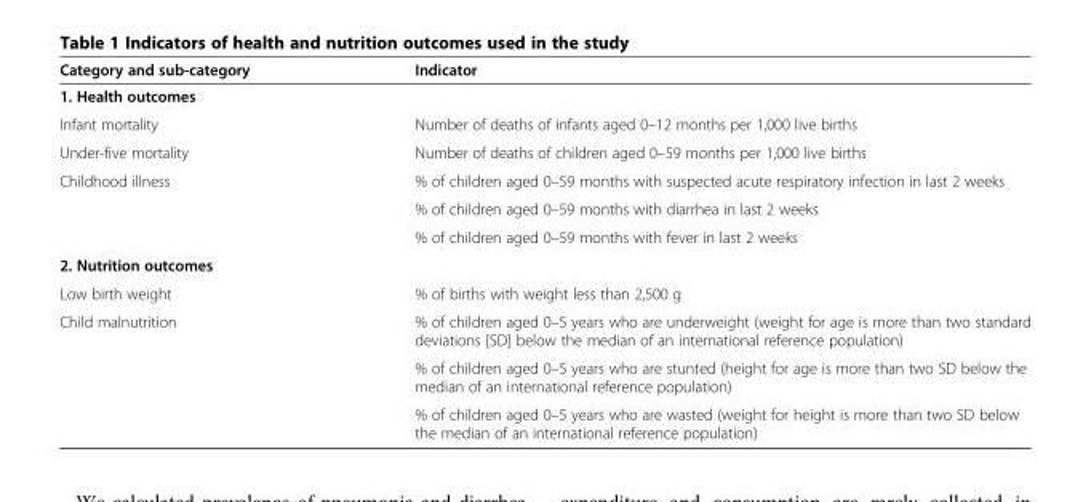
<table><thead><tr><td>Category and sub-category</td><td>Indicator</td></tr></thead><tbody><tr><td colspan="2">1. Health outcomes</td></tr><tr><td>Infant mortality</td><td>Number of deaths of infants aged 0–12 months per 1,000 live births</td></tr><tr><td>Under-five mortality</td><td>Number of deaths of children aged 0–59 months per 1,000 live births</td></tr><tr><td rowspan="3">Childhood illness</td><td>% of children aged 0–59 months with suspected acute respiratory infection in last 2 weeks</td></tr><tr><td>% of children aged 0–59 months with diarrhea in last 2 weeks</td></tr><tr><td>% of children aged 0–59 months with fever in last 2 weeks</td></tr><tr><td colspan="2">2. Nutrition outcomes</td></tr><tr><td>Low birth weight</td><td>% of births with weight less than 2,500 g</td></tr><tr><td rowspan="3">Child malnutrition</td><td>% of children aged 0–5 years who are underweight (weight for age is more than two standard deviations [SD] below the median of an international reference population)</td></tr><tr><td>% of children aged 0–5 years who are stunted (height for age is more than two SD below the median of an international reference population)</td></tr><tr><td>% of children aged 0–5 years who are wasted (weight for height is more than two SD below the median of an international reference population)</td></tr></tbody></table>